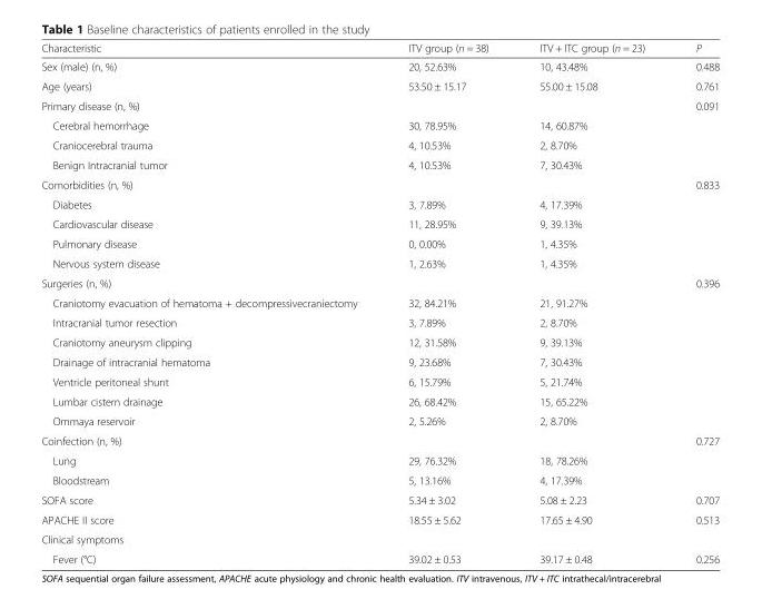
<table><thead><tr><td>Characteristic</td><td>ITV group (n = 38)</td><td>ITV + ITC group (n = 23)</td><td>P</td></tr></thead><tbody><tr><td>Sex (male) (n, %)</td><td>20, 52.63%</td><td>10, 43.48%</td><td>0.488</td></tr><tr><td>Age (years)</td><td>53.50 ± 15.17</td><td>55.00 ± 15.08</td><td>0.761</td></tr><tr><td>Primary disease (n, %)</td><td></td><td></td><td>0.091</td></tr><tr><td>Cerebral hemorrhage</td><td>30, 78.95%</td><td>14, 60.87%</td><td></td></tr><tr><td>Craniocerebral trauma</td><td>4, 10.53%</td><td>2, 8.70%</td><td></td></tr><tr><td>Benign Intracranial tumor</td><td>4, 10.53%</td><td>7, 30.43%</td><td></td></tr><tr><td>Comorbidities (n, %)</td><td></td><td></td><td>0.833</td></tr><tr><td>Diabetes</td><td>3, 7.89%</td><td>4, 17.39%</td><td></td></tr><tr><td>Cardiovascular disease</td><td>11, 28.95%</td><td>9, 39.13%</td><td></td></tr><tr><td>Pulmonary disease</td><td>0, 0.00%</td><td>1, 4.35%</td><td></td></tr><tr><td>Nervous system disease</td><td>1, 2.63%</td><td>1, 4.35%</td><td></td></tr><tr><td>Surgeries (n, %)</td><td></td><td></td><td>0.396</td></tr><tr><td>Craniotomy evacuation of hematoma + decompressivecraniectomy</td><td>32, 84.21%</td><td>21, 91.27%</td><td></td></tr><tr><td>Intracranial tumor resection</td><td>3, 7.89%</td><td>2, 8.70%</td><td></td></tr><tr><td>Craniotomy aneurysm clipping</td><td>12, 31.58%</td><td>9, 39.13%</td><td></td></tr><tr><td>Drainage of intracranial hematoma</td><td>9, 23.68%</td><td>7, 30.43%</td><td></td></tr><tr><td>Ventricle peritoneal shunt</td><td>6, 15.79%</td><td>5, 21.74%</td><td></td></tr><tr><td>Lumbar cistern drainage</td><td>26, 68.42%</td><td>15, 65.22%</td><td></td></tr><tr><td>Ommaya reservoir</td><td>2, 5.26%</td><td>2, 8.70%</td><td></td></tr><tr><td>Coinfection (n, %)</td><td></td><td></td><td>0.727</td></tr><tr><td>Lung</td><td>29, 76.32%</td><td>18, 78.26%</td><td></td></tr><tr><td>Bloodstream</td><td>5, 13.16%</td><td>4, 17.39%</td><td></td></tr><tr><td>SOFA score</td><td>5.34 ± 3.02</td><td>5.08 ± 2.23</td><td>0.707</td></tr><tr><td>APACHE II score</td><td>18.55 ± 5.62</td><td>17.65 ± 4.90</td><td>0.513</td></tr><tr><td colspan="4">Clinical symptoms</td></tr><tr><td>Fever (°C)</td><td>39.02 ± 0.53</td><td>39.17 ± 0.48</td><td>0.256</td></tr></tbody></table>